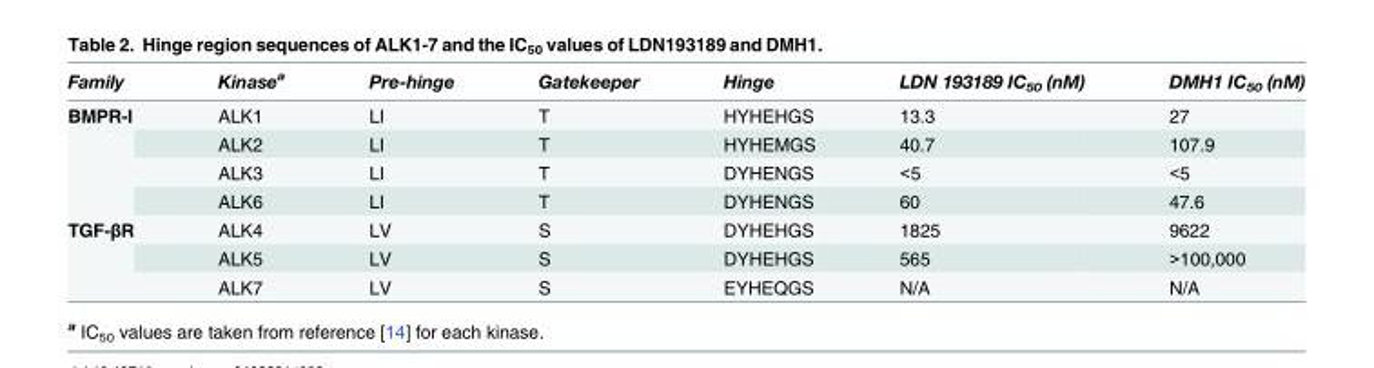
<table><thead><tr><td>Family</td><td>Kinase<sup>a</sup></td><td>Pre-hinge</td><td>Gatekeeper</td><td>Hinge</td><td>LDN 193189 IC<sub>50</sub> (nM)</td><td>DMH1 IC<sub>50</sub> (nM)</td></tr></thead><tbody><tr><td rowspan="4">BMPR-I</td><td>ALK1</td><td>LI</td><td>T</td><td>HYHEHGS</td><td>13.3</td><td>27</td></tr><tr><td>ALK2</td><td>LI</td><td>T</td><td>HYHEMGS</td><td>40.7</td><td>107.9</td></tr><tr><td>ALK3</td><td>LI</td><td>T</td><td>DYHENGS</td><td>&lt;5</td><td>&lt;5</td></tr><tr><td>ALK6</td><td>LI</td><td>T</td><td>DYHENGS</td><td>60</td><td>47.6</td></tr><tr><td rowspan="3">TGF-βR</td><td>ALK4</td><td>LV</td><td>S</td><td>DYHEHGS</td><td>1825</td><td>9622</td></tr><tr><td>ALK5</td><td>LV</td><td>S</td><td>DYHEHGS</td><td>565</td><td>&gt;100,000</td></tr><tr><td>ALK7</td><td>LV</td><td>S</td><td>EYHEQGS</td><td>N/A</td><td>N/A</td></tr></tbody></table>